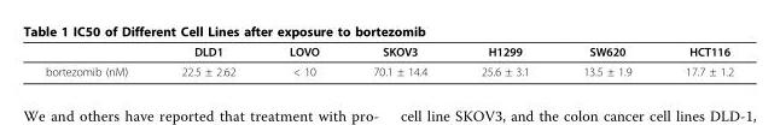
<table><thead><tr><td></td><td>DLD1</td><td>LOVO</td><td>SKOV3</td><td>H1299</td><td>SW620</td><td>HCT116</td></tr></thead><tbody><tr><td>bortezomib (nM)</td><td>22.5 ± 2.62</td><td>&lt; 10</td><td>70.1 ± 14.4</td><td>25.6 ± 3.1</td><td>13.5 ± 1.9</td><td>17.7 ± 1.2</td></tr></tbody></table>